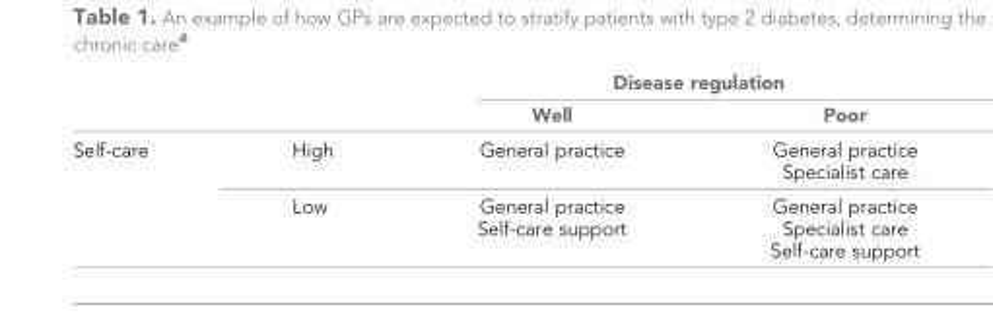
<table><thead><tr><td rowspan="2"></td><td rowspan="2"></td><td colspan="2">Disease regulation</td></tr><tr><td>Well</td><td>Poor</td></tr></thead><tbody><tr><td rowspan="2">Self-care</td><td>High</td><td>General practice</td><td>General practice Specialist care</td></tr><tr><td>Low</td><td>General practice Self-care support</td><td>General practice Specialist care Self-care support</td></tr></tbody></table>